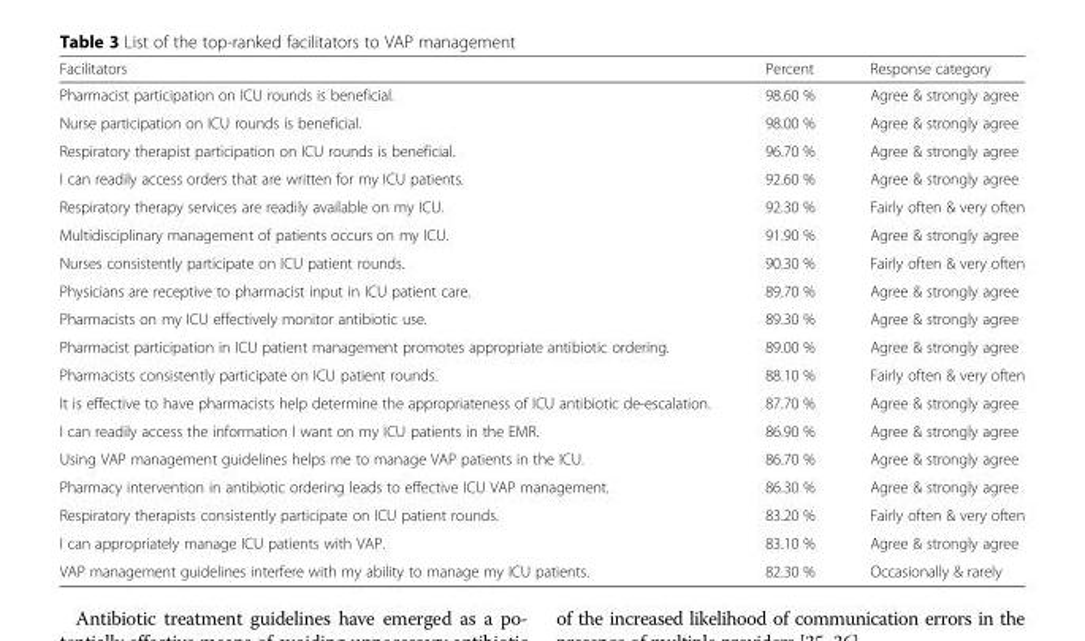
<table><thead><tr><td>Facilitators</td><td>Percent</td><td>Response category</td></tr></thead><tbody><tr><td>Pharmacist participation on ICU rounds is beneficial.</td><td>98.60 %</td><td>Agree &amp; strongly agree</td></tr><tr><td>Nurse participation on ICU rounds is beneficial.</td><td>98.00 %</td><td>Agree &amp; strongly agree</td></tr><tr><td>Respiratory therapist participation on ICU rounds is beneficial.</td><td>96.70 %</td><td>Agree &amp; strongly agree</td></tr><tr><td>I can readily access orders that are written for my ICU patients.</td><td>92.60 %</td><td>Agree &amp; strongly agree</td></tr><tr><td>Respiratory therapy services are readily available on my ICU.</td><td>92.30 %</td><td>Fairly often &amp; very often</td></tr><tr><td>Multidisciplinary management of patients occurs on my ICU.</td><td>91.90 %</td><td>Agree &amp; strongly agree</td></tr><tr><td>Nurses consistently participate on ICU patient rounds.</td><td>90.30 %</td><td>Fairly often &amp; very often</td></tr><tr><td>Physicians are receptive to pharmacist input in ICU patient care.</td><td>89.70 %</td><td>Agree &amp; strongly agree</td></tr><tr><td>Pharmacists on my ICU effectively monitor antibiotic use.</td><td>89.30 %</td><td>Agree &amp; strongly agree</td></tr><tr><td>Pharmacist participation in ICU patient management promotes appropriate antibiotic ordering.</td><td>89.00 %</td><td>Agree &amp; strongly agree</td></tr><tr><td>Pharmacists consistently participate on ICU patient rounds.</td><td>88.10 %</td><td>Fairly often &amp; very often</td></tr><tr><td>It is effective to have pharmacists help determine the appropriateness of ICU antibiotic de-escalation.</td><td>87.70 %</td><td>Agree &amp; strongly agree</td></tr><tr><td>I can readily access the information I want on my ICU patients in the EMR.</td><td>86.90 %</td><td>Agree &amp; strongly agree</td></tr><tr><td>Using VAP management guidelines helps me to manage VAP patients in the ICU.</td><td>86.70 %</td><td>Agree &amp; strongly agree</td></tr><tr><td>Pharmacy intervention in antibiotic ordering leads to effective ICU VAP management.</td><td>86.30 %</td><td>Agree &amp; strongly agree</td></tr><tr><td>Respiratory therapists consistently participate on ICU patient rounds.</td><td>83.20 %</td><td>Fairly often &amp; very often</td></tr><tr><td>I can appropriately manage ICU patients with VAP.</td><td>83.10 %</td><td>Agree &amp; strongly agree</td></tr><tr><td>VAP management guidelines interfere with my ability to manage my ICU patients.</td><td>82.30 %</td><td>Occasionally &amp; rarely</td></tr></tbody></table>